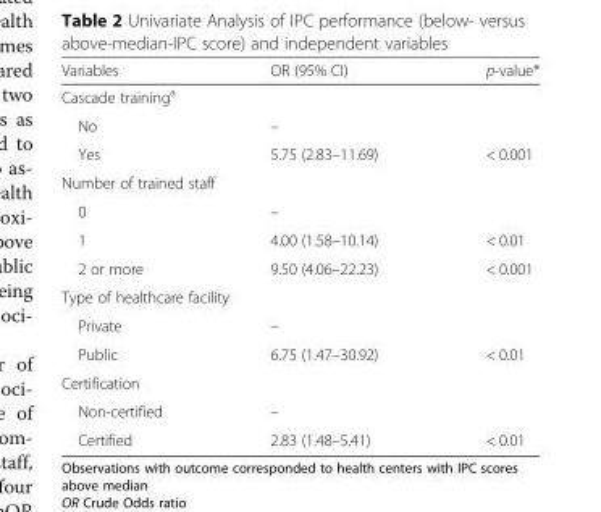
<table><thead><tr><td>Variables</td><td>OR (95% CI)</td><td>p-value*</td></tr></thead><tbody><tr><td colspan="3">Cascade training<sup>a</sup></td></tr><tr><td>No</td><td>–</td><td></td></tr><tr><td>Yes</td><td>5.75 (2.83–11.69)</td><td>&lt; 0.001</td></tr><tr><td colspan="3">Number of trained staff</td></tr><tr><td>0</td><td>–</td><td></td></tr><tr><td>1</td><td>4.00 (1.58–10.14)</td><td>&lt; 0.01</td></tr><tr><td>2 or more</td><td>9.50 (4.06–22.23)</td><td>&lt; 0.001</td></tr><tr><td colspan="3">Type of healthcare facility</td></tr><tr><td>Private</td><td>–</td><td></td></tr><tr><td>Public</td><td>6.75 (1.47–30.92)</td><td>&lt; 0.01</td></tr><tr><td colspan="3">Certification</td></tr><tr><td>Non-certified</td><td>–</td><td></td></tr><tr><td>Certified</td><td>2.83 (1.48–5.41)</td><td>&lt; 0.01</td></tr></tbody></table>